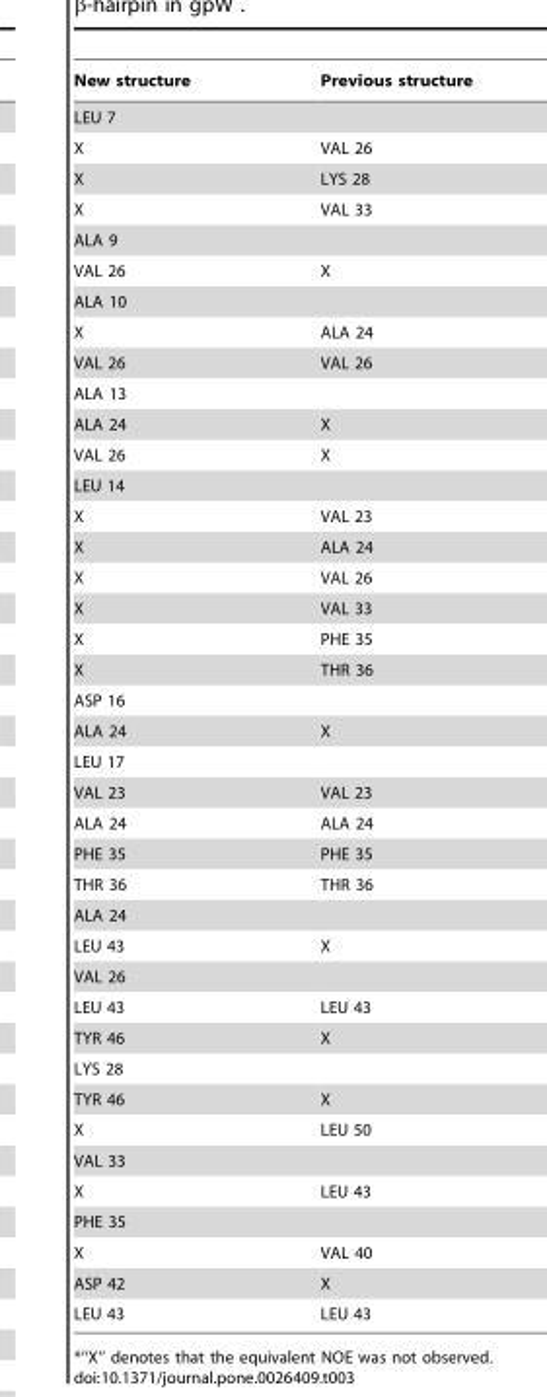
<table><thead><tr><td>New structure</td><td>Previous structure</td></tr></thead><tbody><tr><td colspan="2">LEU 7</td></tr><tr><td>X</td><td>VAL 26</td></tr><tr><td>X</td><td>LYS 28</td></tr><tr><td>X</td><td>VAL 33</td></tr><tr><td colspan="2">ALA 9</td></tr><tr><td>VAL 26</td><td>X</td></tr><tr><td colspan="2">ALA 10</td></tr><tr><td>X</td><td>ALA 24</td></tr><tr><td>VAL 26</td><td>VAL 26</td></tr><tr><td colspan="2">ALA 13</td></tr><tr><td>ALA 24</td><td>X</td></tr><tr><td>VAL 26</td><td>X</td></tr><tr><td colspan="2">LEU 14</td></tr><tr><td>X</td><td>VAL 23</td></tr><tr><td>X</td><td>ALA 24</td></tr><tr><td>X</td><td>VAL 26</td></tr><tr><td>X</td><td>VAL 33</td></tr><tr><td>X</td><td>PHE 35</td></tr><tr><td>X</td><td>THR 36</td></tr><tr><td colspan="2">ASP 16</td></tr><tr><td>ALA 24</td><td>X</td></tr><tr><td colspan="2">LEU 17</td></tr><tr><td>VAL 23</td><td>VAL 23</td></tr><tr><td>ALA 24</td><td>ALA 24</td></tr><tr><td>PHE 35</td><td>PHE 35</td></tr><tr><td>THR 36</td><td>THR 36</td></tr><tr><td colspan="2">ALA 24</td></tr><tr><td>LEU 43</td><td>X</td></tr><tr><td colspan="2">VAL 26</td></tr><tr><td>LEU 43</td><td>LEU 43</td></tr><tr><td>TYR 46</td><td>X</td></tr><tr><td colspan="2">LYS 28</td></tr><tr><td>TYR 46</td><td>X</td></tr><tr><td>X</td><td>LEU 50</td></tr><tr><td colspan="2">VAL 33</td></tr><tr><td>X</td><td>LEU 43</td></tr><tr><td colspan="2">PHE 35</td></tr><tr><td>X</td><td>VAL 40</td></tr><tr><td>ASP 42</td><td>X</td></tr><tr><td>LEU 43</td><td>LEU 43</td></tr></tbody></table>